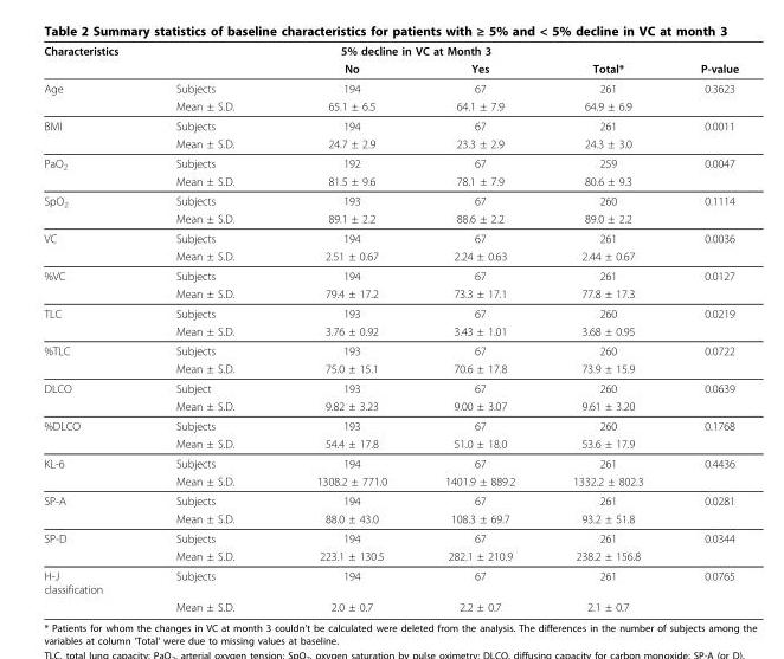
<table><thead><tr><td rowspan="2">Characteristics</td><td rowspan="2"></td><td colspan="2">5% decline in VC at Month 3</td><td rowspan="2">Total*</td><td rowspan="2">P-value</td></tr><tr><td>No</td><td>Yes</td></tr></thead><tbody><tr><td rowspan="2">Age</td><td>Subjects</td><td>194</td><td>67</td><td>261</td><td>0.3623</td></tr><tr><td>Mean ± S.D.</td><td>65.1 ± 6.5</td><td>64.1 ± 7.9</td><td>64.9 ± 6.9</td><td></td></tr><tr><td rowspan="2">BMI</td><td>Subjects</td><td>194</td><td>67</td><td>261</td><td>0.0011</td></tr><tr><td>Mean ± S.D.</td><td>24.7 ± 2.9</td><td>23.3 ± 2.9</td><td>24.3 ± 3.0</td><td></td></tr><tr><td rowspan="2">PaO<sub>2</sub></td><td>Subjects</td><td>192</td><td>67</td><td>259</td><td>0.0047</td></tr><tr><td>Mean ± S.D.</td><td>81.5 ± 9.6</td><td>78.1 ± 7.9</td><td>80.6 ± 9.3</td><td></td></tr><tr><td rowspan="2">SpO<sub>2</sub></td><td>Subjects</td><td>193</td><td>67</td><td>260</td><td>0.1114</td></tr><tr><td>Mean ± S.D.</td><td>89.1 ± 2.2</td><td>88.6 ± 2.2</td><td>89.0 ± 2.2</td><td></td></tr><tr><td rowspan="2">VC</td><td>Subjects</td><td>194</td><td>67</td><td>261</td><td>0.0036</td></tr><tr><td>Mean ± S.D.</td><td>2.51 ± 0.67</td><td>2.24 ± 0.63</td><td>2.44 ± 0.67</td><td></td></tr><tr><td rowspan="2">%VC</td><td>Subjects</td><td>194</td><td>67</td><td>261</td><td>0.0127</td></tr><tr><td>Mean ± S.D.</td><td>79.4 ± 17.2</td><td>73.3 ± 17.1</td><td>77.8 ± 17.3</td><td></td></tr><tr><td rowspan="2">TLC</td><td>Subjects</td><td>193</td><td>67</td><td>260</td><td>0.0219</td></tr><tr><td>Mean ± S.D.</td><td>3.76 ± 0.92</td><td>3.43 ± 1.01</td><td>3.68 ± 0.95</td><td></td></tr><tr><td rowspan="2">%TLC</td><td>Subjects</td><td>193</td><td>67</td><td>260</td><td>0.0722</td></tr><tr><td>Mean ± S.D.</td><td>75.0 ± 15.1</td><td>70.6 ± 17.8</td><td>73.9 ± 15.9</td><td></td></tr><tr><td rowspan="2">DLCO</td><td>Subject</td><td>193</td><td>67</td><td>260</td><td>0.0639</td></tr><tr><td>Mean ± S.D.</td><td>9.82 ± 3.23</td><td>9.00 ± 3.07</td><td>9.61 ± 3.20</td><td></td></tr><tr><td rowspan="2">%DLCO</td><td>Subjects</td><td>193</td><td>67</td><td>260</td><td>0.1768</td></tr><tr><td>Mean ± S.D.</td><td>54.4 ± 17.8</td><td>51.0 ± 18.0</td><td>53.6 ± 17.9</td><td></td></tr><tr><td rowspan="2">KL-6</td><td>Subjects</td><td>194</td><td>67</td><td>261</td><td>0.4436</td></tr><tr><td>Mean ± S.D.</td><td>1308.2 ± 771.0</td><td>1401.9 ± 889.2</td><td>1332.2 ± 802.3</td><td></td></tr><tr><td rowspan="2">SP-A</td><td>Subjects</td><td>194</td><td>67</td><td>261</td><td>0.0281</td></tr><tr><td>Mean ± S.D.</td><td>88.0 ± 43.0</td><td>108.3 ± 69.7</td><td>93.2 ± 51.8</td><td></td></tr><tr><td rowspan="2">SP-D</td><td>Subjects</td><td>194</td><td>67</td><td>261</td><td>0.0344</td></tr><tr><td>Mean ± S.D.</td><td>223.1 ± 130.5</td><td>282.1 ± 210.9</td><td>238.2 ± 156.8</td><td></td></tr><tr><td rowspan="2">H-J classification</td><td>Subjects</td><td>194</td><td>67</td><td>261</td><td>0.0765</td></tr><tr><td>Mean ± S.D.</td><td>2.0 ± 0.7</td><td>2.2 ± 0.7</td><td>2.1 ± 0.7</td><td></td></tr></tbody></table>